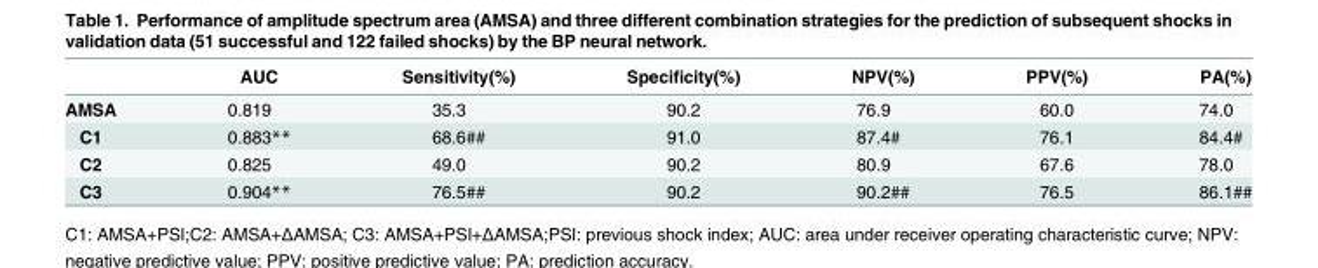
<table><thead><tr><td></td><td>AUC</td><td>Sensitivity(%)</td><td>Specificity(%)</td><td>NPV(%)</td><td>PPV(%)</td><td>PA(%)</td></tr></thead><tbody><tr><td>AMSA</td><td>0.819</td><td>35.3</td><td>90.2</td><td>76.9</td><td>60.0</td><td>74.0</td></tr><tr><td>C1</td><td>0.883**</td><td>68.6##</td><td>91.0</td><td>87.4#</td><td>76.1</td><td>84.4#</td></tr><tr><td>C2</td><td>0.825</td><td>49.0</td><td>90.2</td><td>80.9</td><td>67.6</td><td>78.0</td></tr><tr><td>C3</td><td>0.904**</td><td>76.5##</td><td>90.2</td><td>90.2##</td><td>76.5</td><td>86.1##</td></tr></tbody></table>